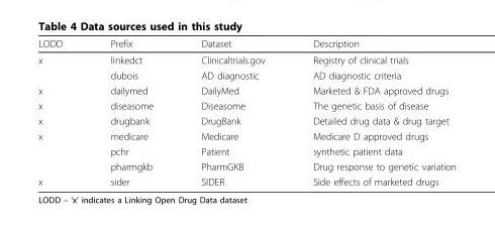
<table><thead><tr><td>LODD</td><td>Prefix</td><td>Dataset</td><td>Description</td></tr></thead><tbody><tr><td rowspan="2">x</td><td>linkedct</td><td>Clinicaltrials.gov</td><td>Registry of clinical trials</td></tr><tr><td>dubois</td><td>AD diagnostic</td><td>AD diagnostic criteria</td></tr><tr><td>x</td><td>dailymed</td><td>DailyMed</td><td>Marketed &amp; FDA approved drugs</td></tr><tr><td>x</td><td>diseasome</td><td>Diseasome</td><td>The genetic basis of disease</td></tr><tr><td>x</td><td>drugbank</td><td>DrugBank</td><td>Detailed drug data &amp; drug target</td></tr><tr><td rowspan="3">x</td><td>medicare</td><td>Medicare</td><td>Medicare D approved drugs</td></tr><tr><td>pchr</td><td>Patient</td><td>synthetic patient data</td></tr><tr><td>pharmgkb</td><td>PharmGKB</td><td>Drug response to genetic variation</td></tr><tr><td>x</td><td>sider</td><td>SIDER</td><td>Side effects of marketed drugs</td></tr></tbody></table>